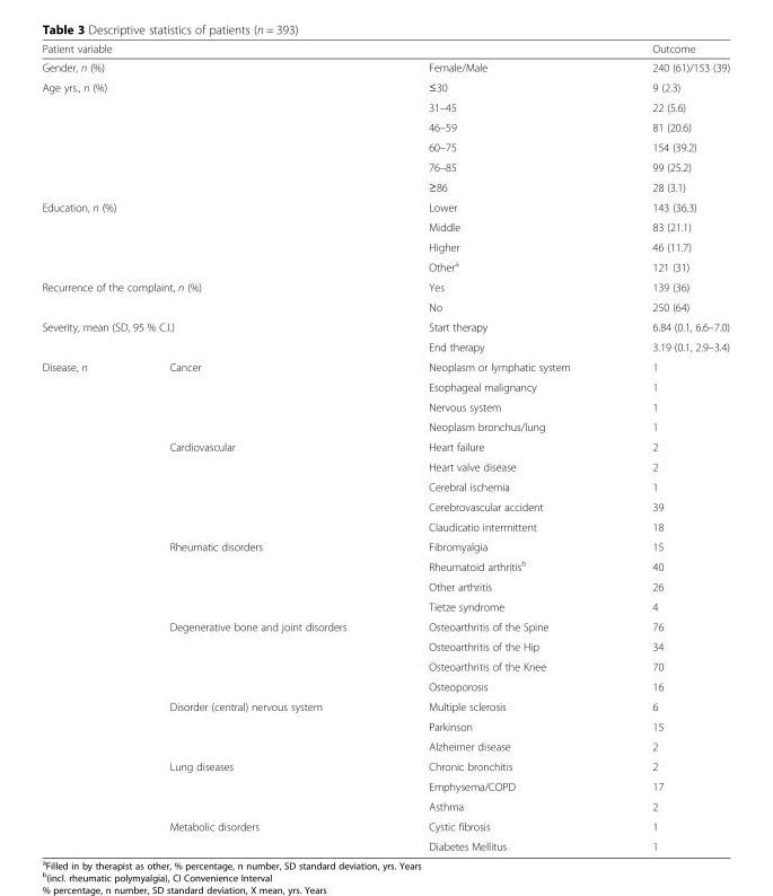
<table><thead><tr><td colspan="3">Patient variable</td><td>Outcome</td></tr></thead><tbody><tr><td colspan="2">Gender, n (%)</td><td>Female/Male</td><td>240 (61)/153 (39)</td></tr><tr><td rowspan="6" colspan="2">Age yrs., n (%)</td><td>≤30</td><td>9 (2.3)</td></tr><tr><td>31–45</td><td>22 (5.6)</td></tr><tr><td>46–59</td><td>81 (20.6)</td></tr><tr><td>60–75</td><td>154 (39.2)</td></tr><tr><td>76–85</td><td>99 (25.2)</td></tr><tr><td>≥86</td><td>28 (3.1)</td></tr><tr><td rowspan="4" colspan="2">Education, n (%)</td><td>Lower</td><td>143 (36.3)</td></tr><tr><td>Middle</td><td>83 (21.1)</td></tr><tr><td>Higher</td><td>46 (11.7)</td></tr><tr><td>Other<sup>a</sup></td><td>121 (31)</td></tr><tr><td rowspan="2" colspan="2">Recurrence of the complaint, n (%)</td><td>Yes</td><td>139 (36)</td></tr><tr><td>No</td><td>250 (64)</td></tr><tr><td rowspan="2" colspan="2">Severity, mean (SD, 95 % C.I.)</td><td>Start therapy</td><td>6.84 (0.1, 6.6–7.0)</td></tr><tr><td>End therapy</td><td>3.19 (0.1, 2.9–3.4)</td></tr><tr><td rowspan="25">Disease, n</td><td>Cancer</td><td>Neoplasm or lymphatic system</td><td>1</td></tr><tr><td rowspan="3"></td><td>Esophageal malignancy</td><td>1</td></tr><tr><td>Nervous system</td><td>1</td></tr><tr><td>Neoplasm bronchus/lung</td><td>1</td></tr><tr><td rowspan="5">Cardiovascular</td><td>Heart failure</td><td>2</td></tr><tr><td>Heart valve disease</td><td>2</td></tr><tr><td>Cerebral ischemia</td><td>1</td></tr><tr><td>Cerebrovascular accident</td><td>39</td></tr><tr><td>Claudicatio intermittent</td><td>18</td></tr><tr><td rowspan="4">Rheumatic disorders</td><td>Fibromyalgia</td><td>15</td></tr><tr><td>Rheumatoid arthritis<sup>b</sup></td><td>40</td></tr><tr><td>Other arthritis</td><td>26</td></tr><tr><td>Tietze syndrome</td><td>4</td></tr><tr><td rowspan="4">Degenerative bone and joint disorders</td><td>Osteoarthritis of the Spine</td><td>76</td></tr><tr><td>Osteoarthritis of the Hip</td><td>34</td></tr><tr><td>Osteoarthritis of the Knee</td><td>70</td></tr><tr><td>Osteoporosis</td><td>16</td></tr><tr><td rowspan="3">Disorder (central) nervous system</td><td>Multiple sclerosis</td><td>6</td></tr><tr><td>Parkinson</td><td>15</td></tr><tr><td>Alzheimer disease</td><td>2</td></tr><tr><td rowspan="3">Lung diseases</td><td>Chronic bronchitis</td><td>2</td></tr><tr><td>Emphysema/COPD</td><td>17</td></tr><tr><td>Asthma</td><td>2</td></tr><tr><td rowspan="2">Metabolic disorders</td><td>Cystic fibrosis</td><td>1</td></tr><tr><td>Diabetes Mellitus</td><td>1</td></tr></tbody></table>